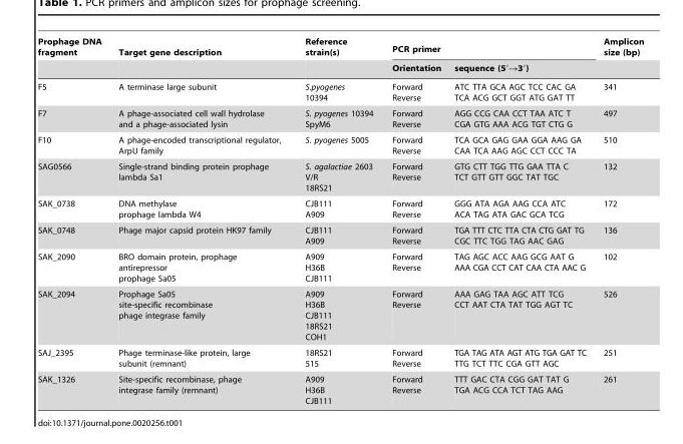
<table><thead><tr><td rowspan="2">Prophage DNA fragment</td><td rowspan="2">Target gene description</td><td rowspan="2">Reference strain(s)</td><td colspan="2">PCR primer</td><td rowspan="2">Amplicon size (bp)</td></tr><tr><td>Orientation</td><td>sequence (5′→3′)</td></tr></thead><tbody><tr><td>F5</td><td>A terminase large subunit</td><td>S.pyogenes 10394</td><td>Forward Reverse</td><td>ATC TTA GCA AGC TCC CAC GA TCA ACG GCT GGT ATG GAT TT</td><td>341</td></tr><tr><td>F7</td><td>A phage-associated cell wall hydrolase and a phage-associated lysin</td><td>S. pyogenes 10394 SpyM6</td><td>Forward Reverse</td><td>AGG CCG CAA CCT TAA ATC T CGA GTG AAA ACG TGT CTG G</td><td>497</td></tr><tr><td>F10</td><td>A phage-encoded transcriptional regulator, ArpU family</td><td>S. pyogenes 5005</td><td>Forward Reverse</td><td>TCA GCA GAG GAA GGA AAG GA CAA TCA AAG AGC CCT CCC TA</td><td>510</td></tr><tr><td>SAG0566</td><td>Single-strand binding protein prophage lambda Sa1</td><td>S. agalactiae 2603 V/R 18RS21</td><td>Forward Reverse</td><td>GTG CTT TGG TTG GAA TTA C TCT GTT GTT GGC TAT TGC</td><td>132</td></tr><tr><td>SAK_0738</td><td>DNA methylase prophage lambda W4</td><td>CJB111 A909</td><td>Forward Reverse</td><td>GGG ATA AGA AAG CCA ATC ACA TAG ATA GAC GCA TCG</td><td>172</td></tr><tr><td>SAK_0748</td><td>Phage major capsid protein HK97 family</td><td>CJB111 A909</td><td>Forward Reverse</td><td>TGA TTT CTC TTA CTA CTG GAT TG CGC TTC TGG TAG AAC GAG</td><td>136</td></tr><tr><td>SAK_2090</td><td>BRO domain protein, prophage antirepressor prophage Sa05</td><td>A909 H36B CJB111</td><td>Forward Reverse</td><td>TAG AGC ACC AAG GCG AAT G AAA CGA CCT CAT CAA CTA AAC G</td><td>102</td></tr><tr><td>SAK_2094</td><td>Prophage Sa05 site-specific recombinase phage integrase family</td><td>A909 H36B CJB111 18RS21 COH1</td><td>Forward Reverse</td><td>AAA GAG TAA AGC ATT TCG CCT AAT CTA TAT TGG AGT TC</td><td>526</td></tr><tr><td>SAJ_2395</td><td>Phage terminase-like protein, large subunit (remnant)</td><td>18RS21 515</td><td>Forward Reverse</td><td>TGA TAG ATA AGT ATG TGA GAT TC TTG TCT TTC CGA GTT AGC</td><td>251</td></tr><tr><td>SAK_1326</td><td>Site-specific recombinase, phage integrase family (remnant)</td><td>A909 H36B CJB111</td><td>Forward Reverse</td><td>TTT GAC CTA CGG GAT TAT G TGA ACG CCA TCT TAG AAG</td><td>261</td></tr></tbody></table>